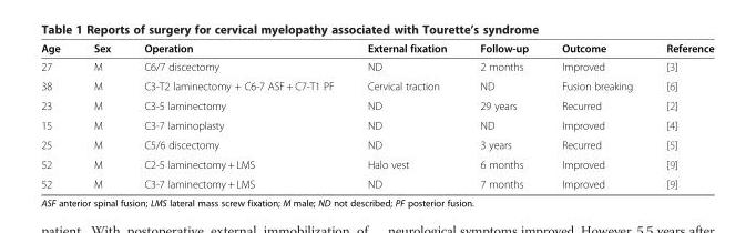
<table><thead><tr><td>Age</td><td>Sex</td><td>Operation</td><td>External fixation</td><td>Follow-up</td><td>Outcome</td><td>Reference</td></tr></thead><tbody><tr><td>27</td><td>M</td><td>C6/7 discectomy</td><td>ND</td><td>2 months</td><td>Improved</td><td>[3]</td></tr><tr><td>38</td><td>M</td><td>C3-T2 laminectomy + C6-7 ASF + C7-T1 PF</td><td>Cervical traction</td><td>ND</td><td>Fusion breaking</td><td>[6]</td></tr><tr><td>23</td><td>M</td><td>C3-5 laminectomy</td><td>ND</td><td>29 years</td><td>Recurred</td><td>[2]</td></tr><tr><td>15</td><td>M</td><td>C3-7 laminoplasty</td><td>ND</td><td>ND</td><td>Improved</td><td>[4]</td></tr><tr><td>25</td><td>M</td><td>C5/6 discectomy</td><td>ND</td><td>3 years</td><td>Recurred</td><td>[5]</td></tr><tr><td>52</td><td>M</td><td>C2-5 laminectomy + LMS</td><td>Halo vest</td><td>6 months</td><td>Improved</td><td>[9]</td></tr><tr><td>52</td><td>M</td><td>C3-7 laminectomy + LMS</td><td>ND</td><td>7 months</td><td>Improved</td><td>[9]</td></tr></tbody></table>